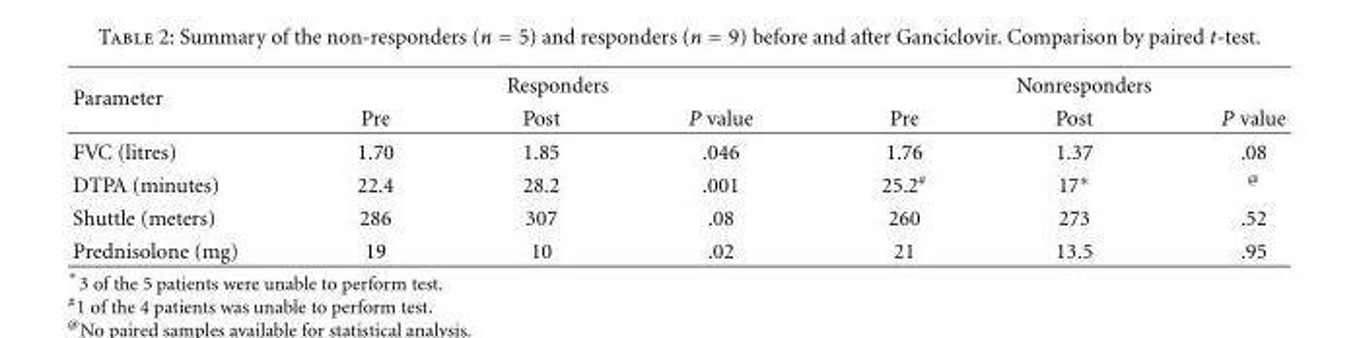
<table><thead><tr><td rowspan="2">Parameter</td><td colspan="3">Responders</td><td colspan="3">Nonresponders</td></tr><tr><td>Pre</td><td>Post</td><td>P value</td><td>Pre</td><td>Post</td><td>P value</td></tr></thead><tbody><tr><td>FVC (litres)</td><td>1.70</td><td>1.85</td><td>.046</td><td>1.76</td><td>1.37</td><td>.08</td></tr><tr><td>DTPA (minutes)</td><td>22.4</td><td>28.2</td><td>.001</td><td>25.2<sup>#</sup></td><td>17∗</td><td><sup>@</sup></td></tr><tr><td>Shuttle (meters)</td><td>286</td><td>307</td><td>.08</td><td>260</td><td>273</td><td>.52</td></tr><tr><td>Prednisolone (mg)</td><td>19</td><td>10</td><td>.02</td><td>21</td><td>13.5</td><td>.95</td></tr></tbody></table>